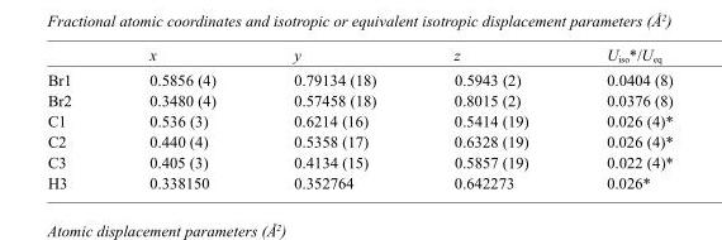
<table><thead><tr><td></td><td>x</td><td>y</td><td>z</td><td>U<sub>iso</sub>*/U<sub>eq</sub></td></tr></thead><tbody><tr><td>Br1</td><td>0.5856 (4)</td><td>0.79134 (18)</td><td>0.5943 (2)</td><td>0.0404 (8)</td></tr><tr><td>Br2</td><td>0.3480 (4)</td><td>0.57458 (18)</td><td>0.8015 (2)</td><td>0.0376 (8)</td></tr><tr><td>C1</td><td>0.536 (3)</td><td>0.6214 (16)</td><td>0.5414 (19)</td><td>0.026 (4)*</td></tr><tr><td>C2</td><td>0.440 (4)</td><td>0.5358 (17)</td><td>0.6328 (19)</td><td>0.026 (4)*</td></tr><tr><td>C3</td><td>0.405 (3)</td><td>0.4134 (15)</td><td>0.5857 (19)</td><td>0.022 (4)*</td></tr><tr><td>H3</td><td>0.338150</td><td>0.352764</td><td>0.642273</td><td>0.026*</td></tr></tbody></table>